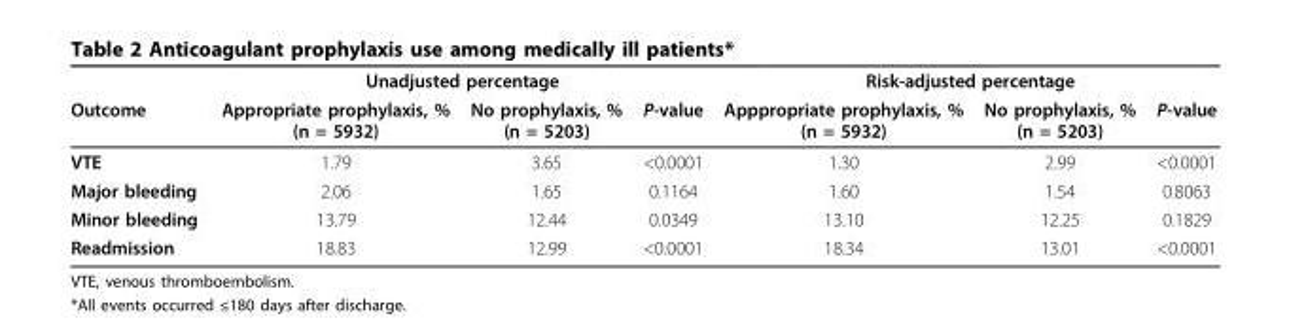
<table><thead><tr><td rowspan="2">Outcome</td><td colspan="3">Unadjusted percentage</td><td colspan="3">Risk-adjusted percentage</td></tr><tr><td>Appropriate prophylaxis, % (n = 5932)</td><td>No prophylaxis, % (n = 5203)</td><td>P-value</td><td>Apppropriate prophylaxis, % (n = 5932)</td><td>No prophylaxis, % (n = 5203)</td><td>P-value</td></tr></thead><tbody><tr><td>VTE</td><td>1.79</td><td>3.65</td><td>&lt;0.0001</td><td>1.30</td><td>2.99</td><td>&lt;0.0001</td></tr><tr><td>Major bleeding</td><td>2.06</td><td>1.65</td><td>0.1164</td><td>1.60</td><td>1.54</td><td>0.8063</td></tr><tr><td>Minor bleeding</td><td>13.79</td><td>12.44</td><td>0.0349</td><td>13.10</td><td>12.25</td><td>0.1829</td></tr><tr><td>Readmission</td><td>18.83</td><td>12.99</td><td>&lt;0.0001</td><td>18.34</td><td>13.01</td><td>&lt;0.0001</td></tr></tbody></table>